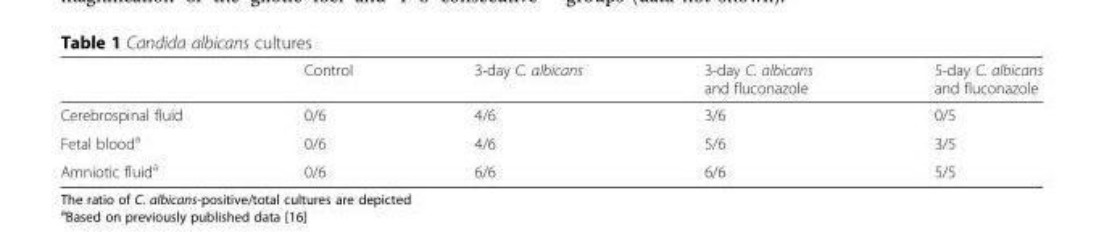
<table><thead><tr><td></td><td>Control</td><td>3-day C. albicans</td><td>3-day C. albicans and fluconazole</td><td>5-day C. albicans and fluconazole</td></tr></thead><tbody><tr><td>Cerebrospinal fluid</td><td>0/6</td><td>4/6</td><td>3/6</td><td>0/5</td></tr><tr><td>Fetal blood<sup>a</sup></td><td>0/6</td><td>4/6</td><td>5/6</td><td>3/5</td></tr><tr><td>Amniotic fluid<sup>a</sup></td><td>0/6</td><td>6/6</td><td>6/6</td><td>5/5</td></tr></tbody></table>